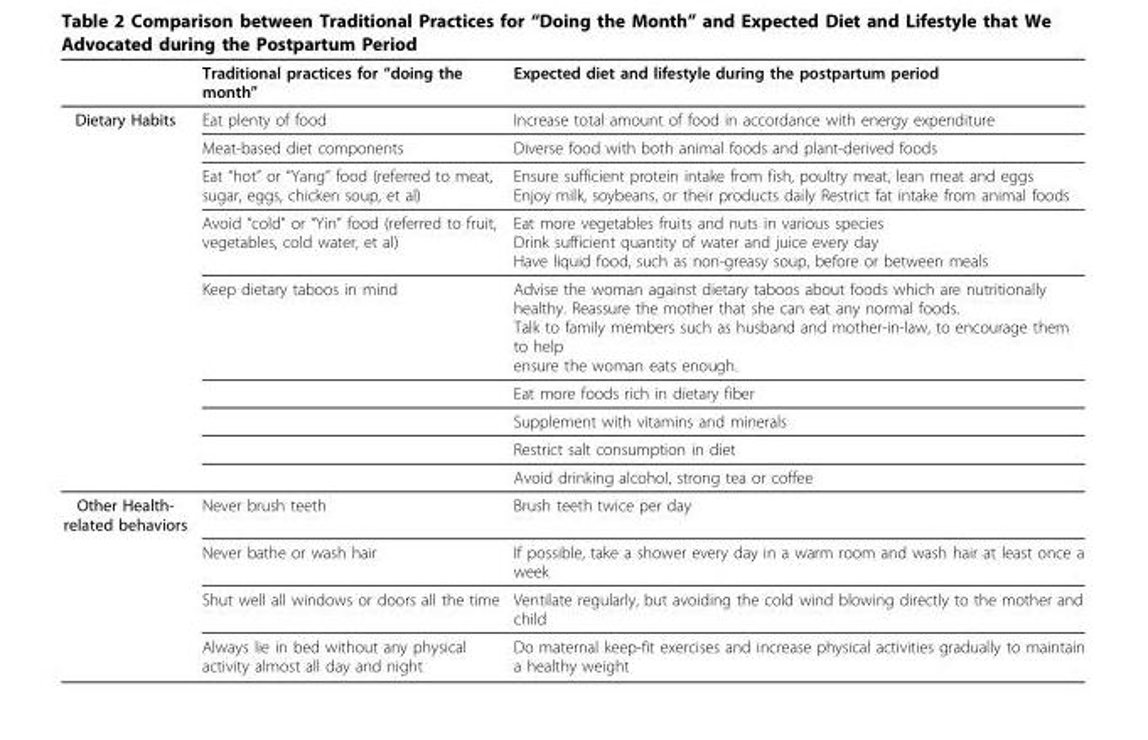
<table><thead><tr><td></td><td>Traditional practices for “doing the month”</td><td>Expected diet and lifestyle during the postpartum period</td></tr></thead><tbody><tr><td rowspan="9">Dietary Habits</td><td>Eat plenty of food</td><td>Increase total amount of food in accordance with energy expenditure</td></tr><tr><td>Meat-based diet components</td><td>Diverse food with both animal foods and plant-derived foods</td></tr><tr><td>Eat “hot” or “Yang” food (referred to meat, sugar, eggs, chicken soup, et al)</td><td>Ensure sufficient protein intake from fish, poultry meat, lean meat and eggs Enjoy milk, soybeans, or their products daily Restrict fat intake from animal foods</td></tr><tr><td>Avoid “cold” or “Yin” food (referred to fruit, vegetables, cold water, et al)</td><td>Eat more vegetables fruits and nuts in various species Drink sufficient quantity of water and juice every day Have liquid food, such as non-greasy soup, before or between meals</td></tr><tr><td>Keep dietary taboos in mind</td><td>Advise the woman against dietary taboos about foods which are nutritionally healthy. Reassure the mother that she can eat any normal foods. Talk to family members such as husband and mother-in-law, to encourage them to help ensure the woman eats enough.</td></tr><tr><td></td><td>Eat more foods rich in dietary fiber</td></tr><tr><td></td><td>Supplement with vitamins and minerals</td></tr><tr><td></td><td>Restrict salt consumption in diet</td></tr><tr><td></td><td>Avoid drinking alcohol, strong tea or coffee</td></tr><tr><td rowspan="4">Other Health- related behaviors</td><td>Never brush teeth</td><td>Brush teeth twice per day</td></tr><tr><td>Never bathe or wash hair</td><td>If possible, take a shower every day in a warm room and wash hair at least once a week</td></tr><tr><td>Shut well all windows or doors all the time</td><td>Ventilate regularly, but avoiding the cold wind blowing directly to the mother and child</td></tr><tr><td>Always lie in bed without any physical activity almost all day and night</td><td>Do maternal keep-fit exercises and increase physical activities gradually to maintain a healthy weight</td></tr></tbody></table>